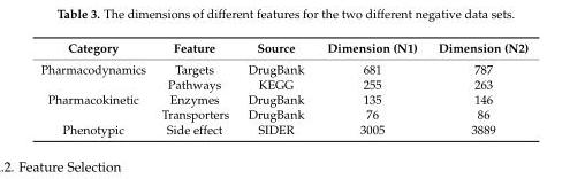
<table><thead><tr><td>Category</td><td>Feature</td><td>Source</td><td>Dimension (N1)</td><td>Dimension (N2)</td></tr></thead><tbody><tr><td rowspan="2">Pharmacodynamics</td><td>Targets</td><td>DrugBank</td><td>681</td><td>787</td></tr><tr><td>Pathways</td><td>KEGG</td><td>255</td><td>263</td></tr><tr><td rowspan="2">Pharmacokinetic</td><td>Enzymes</td><td>DrugBank</td><td>135</td><td>146</td></tr><tr><td>Transporters</td><td>DrugBank</td><td>76</td><td>86</td></tr><tr><td>Phenotypic</td><td>Side effect</td><td>SIDER</td><td>3005</td><td>3889</td></tr></tbody></table>